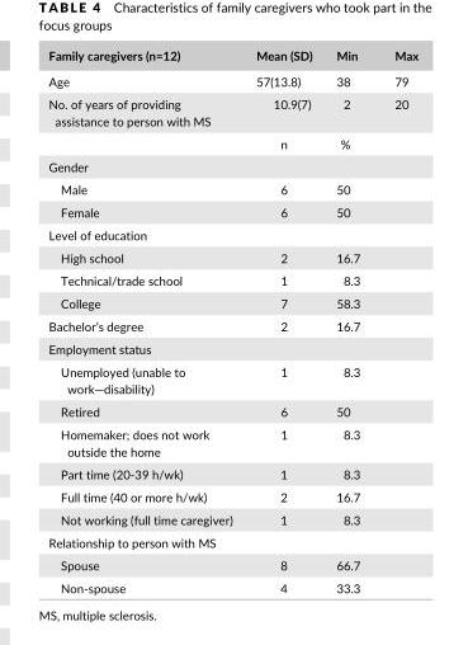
<table><thead><tr><td>Family caregivers (n=12)</td><td>Mean (SD)</td><td>Min</td><td>Max</td></tr></thead><tbody><tr><td>Age</td><td>57(13.8)</td><td>38</td><td>79</td></tr><tr><td rowspan="2">No. of years of providing assistance to person with MS</td><td>10.9(7)</td><td>2</td><td>20</td></tr><tr><td>n</td><td>%</td><td></td></tr><tr><td colspan="4">Gender</td></tr><tr><td>Male</td><td>6</td><td>50</td><td></td></tr><tr><td>Female</td><td>6</td><td>50</td><td></td></tr><tr><td colspan="4">Level of education</td></tr><tr><td>High school</td><td>2</td><td>16.7</td><td></td></tr><tr><td>Technical/trade school</td><td>1</td><td>8.3</td><td></td></tr><tr><td>College</td><td>7</td><td>58.3</td><td></td></tr><tr><td>Bachelor’s degree</td><td>2</td><td>16.7</td><td></td></tr><tr><td colspan="4">Employment status</td></tr><tr><td>Unemployed (unable to work—disability)</td><td>1</td><td>8.3</td><td></td></tr><tr><td>Retired</td><td>6</td><td>50</td><td></td></tr><tr><td>Homemaker; does not work outside the home</td><td>1</td><td>8.3</td><td></td></tr><tr><td>Part time (20- 39 h/wk)</td><td>1</td><td>8.3</td><td></td></tr><tr><td>Full time (40 or more h/wk)</td><td>2</td><td>16.7</td><td></td></tr><tr><td>Not working (full time caregiver)</td><td>1</td><td>8.3</td><td></td></tr><tr><td colspan="4">Relationship to person with MS</td></tr><tr><td>Spouse</td><td>8</td><td>66.7</td><td></td></tr><tr><td>Non- spouse</td><td>4</td><td>33.3</td><td></td></tr></tbody></table>